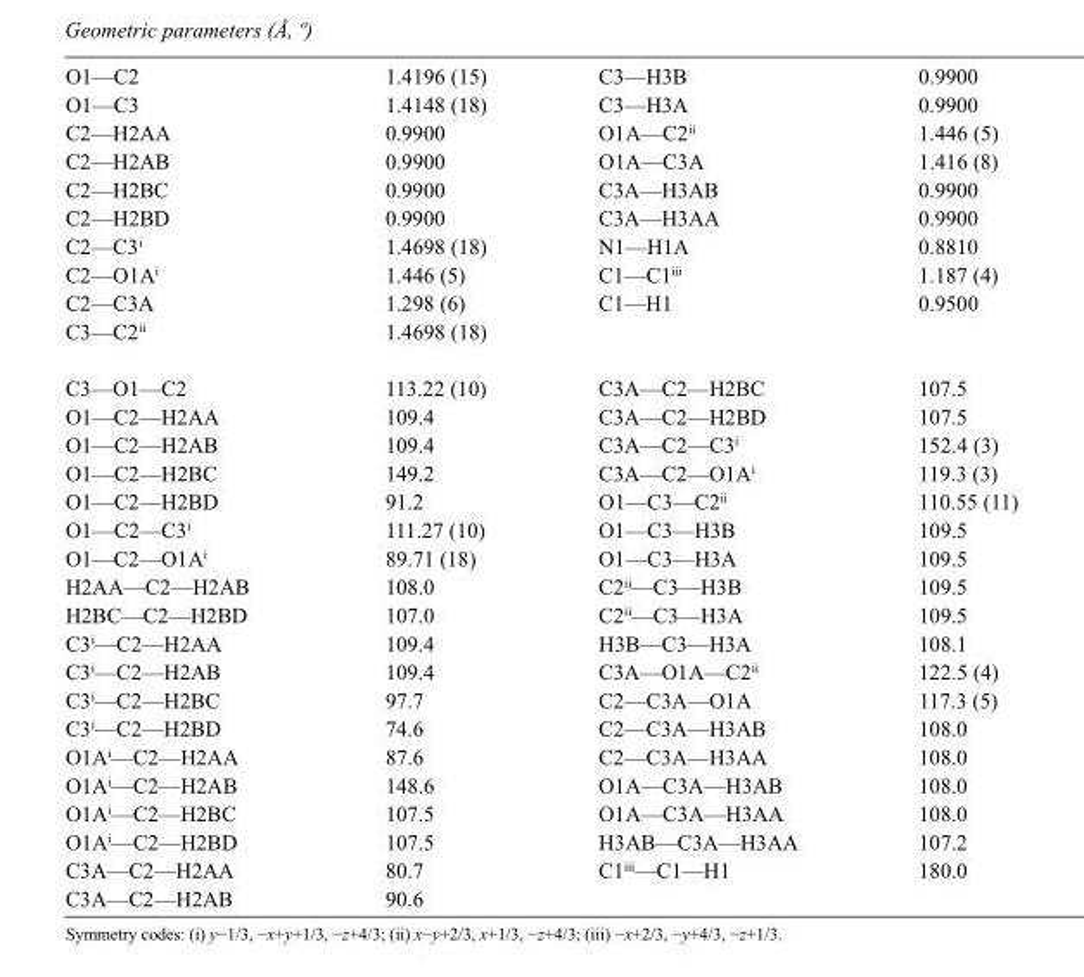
<table><tbody><tr><td>O1—C2</td><td>1.4196 (15)</td><td>C3—H3B</td><td>0.9900</td></tr><tr><td>O1—C3</td><td>1.4148 (18)</td><td>C3—H3A</td><td>0.9900</td></tr><tr><td>C2—H2AA</td><td>0.9900</td><td>O1A—C2<sup>ii</sup></td><td>1.446 (5)</td></tr><tr><td>C2—H2AB</td><td>0.9900</td><td>O1A—C3A</td><td>1.416 (8)</td></tr><tr><td>C2—H2BC</td><td>0.9900</td><td>C3A—H3AB</td><td>0.9900</td></tr><tr><td>C2—H2BD</td><td>0.9900</td><td>C3A—H3AA</td><td>0.9900</td></tr><tr><td>C2—C3<sup>i</sup></td><td>1.4698 (18)</td><td>N1—H1A</td><td>0.8810</td></tr><tr><td>C2—O1A<sup>i</sup></td><td>1.446 (5)</td><td>C1—C1<sup>iii</sup></td><td>1.187 (4)</td></tr><tr><td>C2—C3A</td><td>1.298 (6)</td><td>C1—H1</td><td>0.9500</td></tr><tr><td>C3—C2<sup>ii</sup></td><td>1.4698 (18)</td><td></td><td></td></tr><tr><td>C3—O1—C2</td><td>113.22 (10)</td><td>C3A—C2—H2BC</td><td>107.5</td></tr><tr><td>O1—C2—H2AA</td><td>109.4</td><td>C3A—C2—H2BD</td><td>107.5</td></tr><tr><td>O1—C2—H2AB</td><td>109.4</td><td>C3A—C2—C3<sup>i</sup></td><td>152.4 (3)</td></tr><tr><td>O1—C2—H2BC</td><td>149.2</td><td>C3A—C2—O1A<sup>i</sup></td><td>119.3 (3)</td></tr><tr><td>O1—C2—H2BD</td><td>91.2</td><td>O1—C3—C2<sup>ii</sup></td><td>110.55 (11)</td></tr><tr><td>O1—C2—C3<sup>i</sup></td><td>111.27 (10)</td><td>O1—C3—H3B</td><td>109.5</td></tr><tr><td>O1—C2—O1A<sup>i</sup></td><td>89.71 (18)</td><td>O1—C3—H3A</td><td>109.5</td></tr><tr><td>H2AA—C2—H2AB</td><td>108.0</td><td>C2<sup>ii</sup>—C3—H3B</td><td>109.5</td></tr><tr><td>H2BC—C2—H2BD</td><td>107.0</td><td>C2<sup>ii</sup>—C3—H3A</td><td>109.5</td></tr><tr><td>C3<sup>i</sup>—C2—H2AA</td><td>109.4</td><td>H3B—C3—H3A</td><td>108.1</td></tr><tr><td>C3<sup>i</sup>—C2—H2AB</td><td>109.4</td><td>C3A—O1A—C2<sup>ii</sup></td><td>122.5 (4)</td></tr><tr><td>C3<sup>i</sup>—C2—H2BC</td><td>97.7</td><td>C2—C3A—O1A</td><td>117.3 (5)</td></tr><tr><td>C3<sup>i</sup>—C2—H2BD</td><td>74.6</td><td>C2—C3A—H3AB</td><td>108.0</td></tr><tr><td>O1A<sup>i</sup>—C2—H2AA</td><td>87.6</td><td>C2—C3A—H3AA</td><td>108.0</td></tr><tr><td>O1A<sup>i</sup>—C2—H2AB</td><td>148.6</td><td>O1A—C3A—H3AB</td><td>108.0</td></tr><tr><td>O1A<sup>i</sup>—C2—H2BC</td><td>107.5</td><td>O1A—C3A—H3AA</td><td>108.0</td></tr><tr><td>O1A<sup>i</sup>—C2—H2BD</td><td>107.5</td><td>H3AB—C3A—H3AA</td><td>107.2</td></tr><tr><td>C3A—C2—H2AA</td><td>80.7</td><td>C1<sup>iii</sup>—C1—H1</td><td>180.0</td></tr><tr><td>C3A—C2—H2AB</td><td>90.6</td><td></td><td></td></tr></tbody></table>